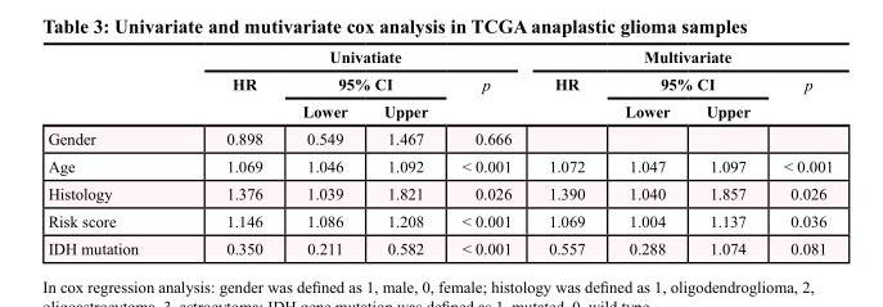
<table><thead><tr><td rowspan="3"></td><td colspan="4">Univatiate</td><td colspan="4">Multivariate</td></tr><tr><td rowspan="2">HR</td><td colspan="2">95% CI</td><td rowspan="2">p</td><td rowspan="2">HR</td><td colspan="2">95% CI</td><td rowspan="2">p</td></tr><tr><td>Lower</td><td>Upper</td><td>Lower</td><td>Upper</td></tr></thead><tbody><tr><td>Gender</td><td>0.898</td><td>0.549</td><td>1.467</td><td>0.666</td><td></td><td></td><td></td><td></td></tr><tr><td>Age</td><td>1.069</td><td>1.046</td><td>1.092</td><td>&lt; 0.001</td><td>1.072</td><td>1.047</td><td>1.097</td><td>&lt; 0.001</td></tr><tr><td>Histology</td><td>1.376</td><td>1.039</td><td>1.821</td><td>0.026</td><td>1.390</td><td>1.040</td><td>1.857</td><td>0.026</td></tr><tr><td>Risk score</td><td>1.146</td><td>1.086</td><td>1.208</td><td>&lt; 0.001</td><td>1.069</td><td>1.004</td><td>1.137</td><td>0.036</td></tr><tr><td>IDH mutation</td><td>0.350</td><td>0.211</td><td>0.582</td><td>&lt; 0.001</td><td>0.557</td><td>0.288</td><td>1.074</td><td>0.081</td></tr></tbody></table>